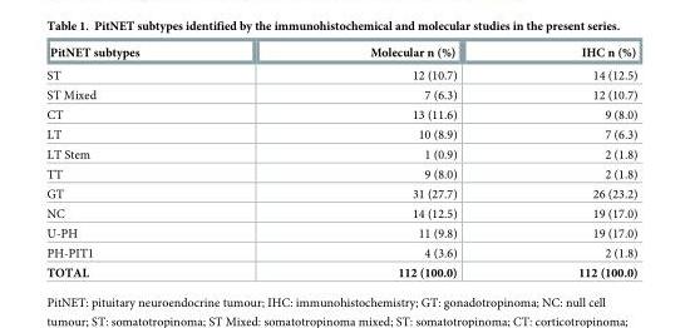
<table><thead><tr><td>PitNET subtypes</td><td>Molecular n (%)</td><td>IHC n (%)</td></tr></thead><tbody><tr><td>ST</td><td>12 (10.7)</td><td>14 (12.5)</td></tr><tr><td>ST Mixed</td><td>7 (6.3)</td><td>12 (10.7)</td></tr><tr><td>CT</td><td>13 (11.6)</td><td>9 (8.0)</td></tr><tr><td>LT</td><td>10 (8.9)</td><td>7 (6.3)</td></tr><tr><td>LT Stem</td><td>1 (0.9)</td><td>2 (1.8)</td></tr><tr><td>TT</td><td>9 (8.0)</td><td>2 (1.8)</td></tr><tr><td>GT</td><td>31 (27.7)</td><td>26 (23.2)</td></tr><tr><td>NC</td><td>14 (12.5)</td><td>19 (17.0)</td></tr><tr><td>U-PH</td><td>11 (9.8)</td><td>19 (17.0)</td></tr><tr><td>PH-PIT1</td><td>4 (3.6)</td><td>2 (1.8)</td></tr><tr><td>TOTAL</td><td>112 (100.0)</td><td>112 (100.0)</td></tr></tbody></table>